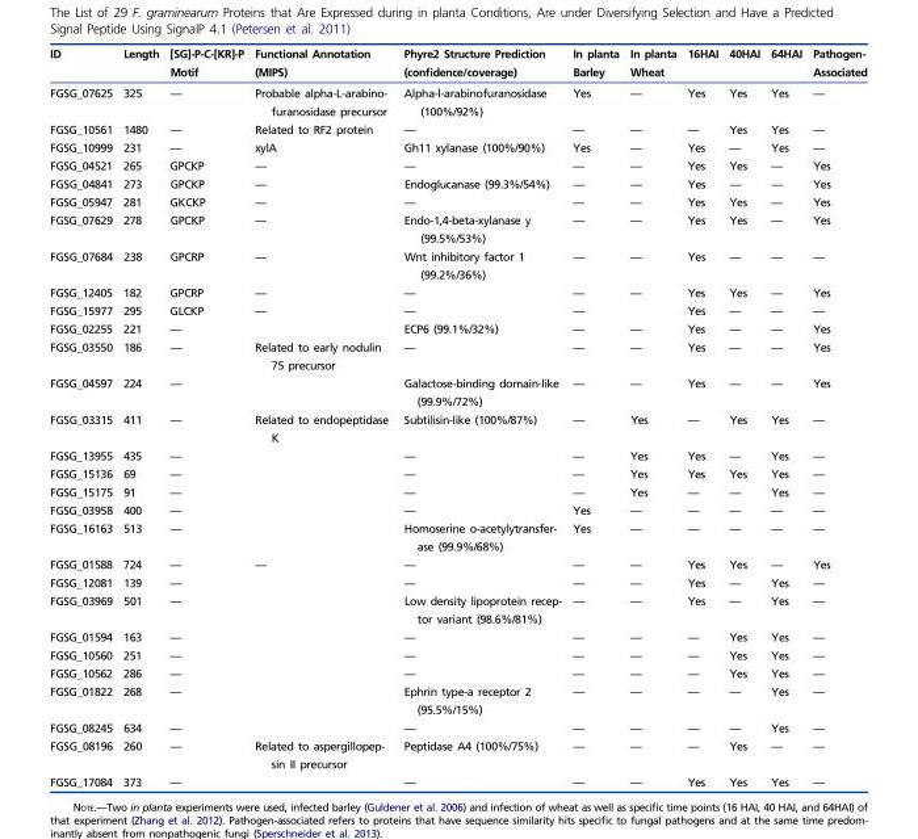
<table><thead><tr><td>ID</td><td>Length</td><td>[SG]-P-C-[KR]-P Motif</td><td>Functional Annotation (MIPS)</td><td>Phyre2 Structure Prediction (confidence/coverage)</td><td>In planta Barley</td><td>In planta Wheat</td><td>16HAI</td><td>40HAI</td><td>64HAI</td><td>Pathogen- Associated</td></tr></thead><tbody><tr><td>FGSG_07625</td><td>325</td><td>—</td><td>Probable alpha-L-arabino- furanosidase precursor</td><td>Alpha-l-arabinofuranosidase (100%/92%)</td><td>Yes</td><td>—</td><td>Yes</td><td>Yes</td><td>Yes</td><td>—</td></tr><tr><td>FGSG_10561</td><td>1480</td><td>—</td><td>Related to RF2 protein</td><td>—</td><td>—</td><td>—</td><td>—</td><td>Yes</td><td>Yes</td><td>—</td></tr><tr><td>FGSG_10999</td><td>231</td><td>—</td><td>xylA</td><td>Gh11 xylanase (100%/90%)</td><td>Yes</td><td>—</td><td>Yes</td><td>—</td><td>Yes</td><td>—</td></tr><tr><td>FGSG_04521</td><td>265</td><td>GPCKP</td><td>—</td><td>—</td><td>—</td><td>—</td><td>Yes</td><td>Yes</td><td>—</td><td>Yes</td></tr><tr><td>FGSG_04841</td><td>273</td><td>GPCKP</td><td>—</td><td>Endoglucanase (99.3%/54%)</td><td>—</td><td>—</td><td>Yes</td><td>—</td><td>—</td><td>Yes</td></tr><tr><td>FGSG_05947</td><td>281</td><td>GKCKP</td><td>—</td><td>—</td><td>—</td><td>—</td><td>Yes</td><td>Yes</td><td>—</td><td>Yes</td></tr><tr><td>FGSG_07629</td><td>278</td><td>GPCKP</td><td>—</td><td>Endo-1,4-beta-xylanase y (99.5%/53%)</td><td>—</td><td>—</td><td>Yes</td><td>Yes</td><td>—</td><td>Yes</td></tr><tr><td>FGSG_07684</td><td>238</td><td>GPCRP</td><td>—</td><td>Wnt inhibitory factor 1 (99.2%/36%)</td><td>—</td><td>—</td><td>Yes</td><td>—</td><td>—</td><td>—</td></tr><tr><td>FGSG_12405</td><td>182</td><td>GPCRP</td><td>—</td><td>—</td><td>—</td><td>—</td><td>Yes</td><td>Yes</td><td>—</td><td>Yes</td></tr><tr><td>FGSG_15977</td><td>295</td><td>GLCKP</td><td>—</td><td>—</td><td>—</td><td></td><td>Yes</td><td>—</td><td>—</td><td>—</td></tr><tr><td>FGSG_02255</td><td>221</td><td>—</td><td></td><td>ECP6 (99.1%/32%)</td><td>—</td><td>—</td><td>Yes</td><td>—</td><td>—</td><td>Yes</td></tr><tr><td>FGSG_03550</td><td>186</td><td>—</td><td>Related to early nodulin 75 precursor</td><td>—</td><td>—</td><td>—</td><td>Yes</td><td>—</td><td>—</td><td>Yes</td></tr><tr><td>FGSG_04597</td><td>224</td><td>—</td><td></td><td>Galactose-binding domain-like (99.9%/72%)</td><td>—</td><td>—</td><td>Yes</td><td>—</td><td>—</td><td>Yes</td></tr><tr><td>FGSG_03315</td><td>411</td><td>—</td><td>Related to endopeptidase K</td><td>Subtilisin-like (100%/87%)</td><td>—</td><td>Yes</td><td>—</td><td>Yes</td><td>Yes</td><td>—</td></tr><tr><td>FGSG_13955</td><td>435</td><td>—</td><td></td><td>—</td><td>—</td><td>Yes</td><td>Yes</td><td>—</td><td>Yes</td><td>—</td></tr><tr><td>FGSG_15136</td><td>69</td><td>—</td><td></td><td>—</td><td>—</td><td>Yes</td><td>Yes</td><td>Yes</td><td>Yes</td><td>—</td></tr><tr><td>FGSG_15175</td><td>91</td><td>—</td><td></td><td>—</td><td>—</td><td>Yes</td><td>—</td><td>—</td><td>Yes</td><td>—</td></tr><tr><td>FGSG_03958</td><td>400</td><td>—</td><td></td><td>—</td><td>Yes</td><td>—</td><td>—</td><td>—</td><td>—</td><td>—</td></tr><tr><td>FGSG_16163</td><td>513</td><td>—</td><td></td><td>Homoserine o-acetylytransfer- ase (99.9%/68%)</td><td>Yes</td><td>—</td><td>—</td><td>—</td><td>—</td><td>—</td></tr><tr><td>FGSG_01588</td><td>724</td><td>—</td><td>—</td><td>—</td><td>—</td><td>—</td><td>Yes</td><td>Yes</td><td>—</td><td>Yes</td></tr><tr><td>FGSG_12081</td><td>139</td><td>—</td><td></td><td>—</td><td>—</td><td>—</td><td>Yes</td><td>—</td><td>Yes</td><td>—</td></tr><tr><td>FGSG_03969</td><td>501</td><td>—</td><td></td><td>Low density lipoprotein recep- tor variant (98.6%/81%)</td><td>—</td><td>—</td><td>Yes</td><td>—</td><td>Yes</td><td>—</td></tr><tr><td>FGSG_01594</td><td>163</td><td>—</td><td></td><td>—</td><td>—</td><td>—</td><td>—</td><td>Yes</td><td>Yes</td><td>—</td></tr><tr><td>FGSG_10560</td><td>251</td><td>—</td><td></td><td>—</td><td>—</td><td>—</td><td>—</td><td>Yes</td><td>Yes</td><td>—</td></tr><tr><td>FGSG_10562</td><td>286</td><td>—</td><td></td><td>—</td><td>—</td><td>—</td><td>—</td><td>Yes</td><td>Yes</td><td>—</td></tr><tr><td>FGSG_01822</td><td>268</td><td>—</td><td></td><td>Ephrin type-a receptor 2 (95.5%/15%)</td><td>—</td><td>—</td><td>—</td><td>—</td><td>Yes</td><td>—</td></tr><tr><td>FGSG_08245</td><td>634</td><td>—</td><td></td><td>—</td><td>—</td><td>—</td><td>—</td><td>—</td><td>Yes</td><td>—</td></tr><tr><td>FGSG_08196</td><td>260</td><td>—</td><td>Related to aspergillopep- sin II precursor</td><td>Peptidase A4 (100%/75%)</td><td>—</td><td>—</td><td>—</td><td>Yes</td><td>—</td><td>—</td></tr><tr><td>FGSG_17084</td><td>373</td><td>—</td><td></td><td>—</td><td>—</td><td>—</td><td>Yes</td><td>Yes</td><td>Yes</td><td>—</td></tr></tbody></table>